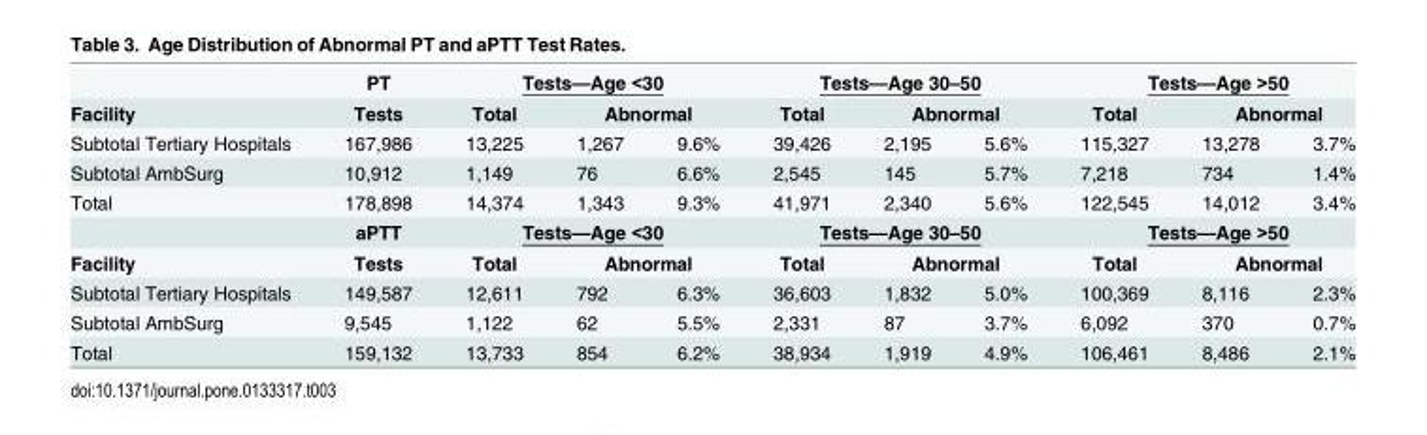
<table><thead><tr><td rowspan="3">Facility Subtotal Tertiary Hospitals</td><td rowspan="3">PT Tests 167,986</td><td colspan="3">Tests—Age &lt;30</td><td colspan="3">Tests—Age 30–50</td><td colspan="3">Tests—Age &gt;50</td></tr><tr><td rowspan="2">Total 13,225</td><td colspan="2">Abnormal</td><td rowspan="2">Total 39,426</td><td colspan="2">Abnormal</td><td rowspan="2">Total 115,327</td><td colspan="2">Abnormal</td></tr><tr><td>1,267</td><td>9.6%</td><td>2,195</td><td>5.6%</td><td>13,278</td><td>3.7%</td></tr></thead><tbody><tr><td>Subtotal AmbSurg</td><td>10,912</td><td>1,149</td><td>76</td><td>6.6%</td><td>2,545</td><td>145</td><td>5.7%</td><td>7,218</td><td>734</td><td>1.4%</td></tr><tr><td rowspan="2">Total</td><td>178,898</td><td>14,374</td><td>1,343</td><td>9.3%</td><td>41,971</td><td>2,340</td><td>5.6%</td><td>122,545</td><td>14,012</td><td>3.4%</td></tr><tr><td>aPTT</td><td colspan="3">Tests—Age &lt;30</td><td colspan="3">Tests—Age 30–50</td><td colspan="3">Tests—Age &gt;50</td></tr><tr><td>Facility</td><td>Tests</td><td>Total</td><td colspan="2">Abnormal</td><td>Total</td><td colspan="2">Abnormal</td><td>Total</td><td colspan="2">Abnormal</td></tr><tr><td>Subtotal Tertiary Hospitals</td><td>149,587</td><td>12,611</td><td>792</td><td>6.3%</td><td>36,603</td><td>1,832</td><td>5.0%</td><td>100,369</td><td>8,116</td><td>2.3%</td></tr><tr><td>Subtotal AmbSurg</td><td>9,545</td><td>1,122</td><td>62</td><td>5.5%</td><td>2,331</td><td>87</td><td>3.7%</td><td>6,092</td><td>370</td><td>0.7%</td></tr><tr><td>Total</td><td>159,132</td><td>13,733</td><td>854</td><td>6.2%</td><td>38,934</td><td>1,919</td><td>4.9%</td><td>106,461</td><td>8,486</td><td>2.1%</td></tr></tbody></table>